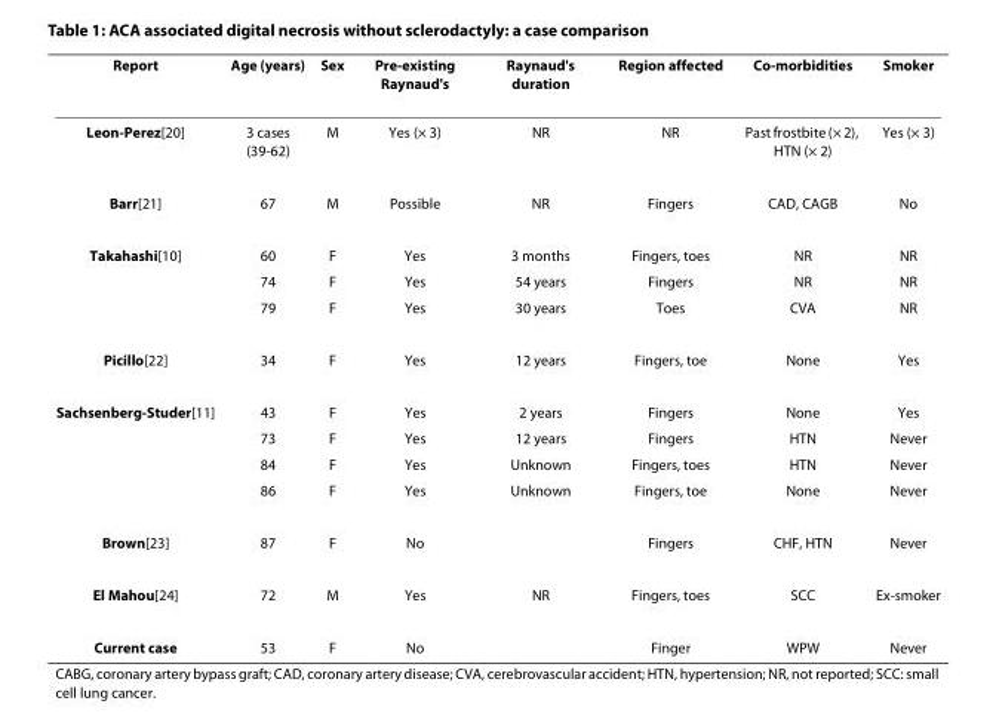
<table><thead><tr><td>Report</td><td>Age (years)</td><td>Sex</td><td>Pre-existing Raynaud&#x27;s</td><td>Raynaud&#x27;s duration</td><td>Region affected</td><td>Co-morbidities</td><td>Smoker</td></tr></thead><tbody><tr><td>Leon-Perez[20]</td><td>3 cases (39-62)</td><td>M</td><td>Yes (× 3)</td><td>NR</td><td>NR</td><td>Past frostbite (× 2), HTN (× 2)</td><td>Yes (× 3)</td></tr><tr><td>Barr[21]</td><td>67</td><td>M</td><td>Possible</td><td>NR</td><td>Fingers</td><td>CAD, CAGB</td><td>No</td></tr><tr><td rowspan="3">Takahashi[10]</td><td>60</td><td>F</td><td>Yes</td><td>3 months</td><td>Fingers, toes</td><td>NR</td><td>NR</td></tr><tr><td>74</td><td>F</td><td>Yes</td><td>54 years</td><td>Fingers</td><td>NR</td><td>NR</td></tr><tr><td>79</td><td>F</td><td>Yes</td><td>30 years</td><td>Toes</td><td>CVA</td><td>NR</td></tr><tr><td>Picillo[22]</td><td>34</td><td>F</td><td>Yes</td><td>12 years</td><td>Fingers, toe</td><td>None</td><td>Yes</td></tr><tr><td rowspan="4">Sachsenberg-Studer[11]</td><td>43</td><td>F</td><td>Yes</td><td>2 years</td><td>Fingers</td><td>None</td><td>Yes</td></tr><tr><td>73</td><td>F</td><td>Yes</td><td>12 years</td><td>Fingers</td><td>HTN</td><td>Never</td></tr><tr><td>84</td><td>F</td><td>Yes</td><td>Unknown</td><td>Fingers, toes</td><td>HTN</td><td>Never</td></tr><tr><td>86</td><td>F</td><td>Yes</td><td>Unknown</td><td>Fingers, toe</td><td>None</td><td>Never</td></tr><tr><td>Brown[23]</td><td>87</td><td>F</td><td>No</td><td></td><td>Fingers</td><td>CHF, HTN</td><td>Never</td></tr><tr><td>El Mahou[24]</td><td>72</td><td>M</td><td>Yes</td><td>NR</td><td>Fingers, toes</td><td>SCC</td><td>Ex-smoker</td></tr><tr><td>Current case</td><td>53</td><td>F</td><td>No</td><td></td><td>Finger</td><td>WPW</td><td>Never</td></tr></tbody></table>